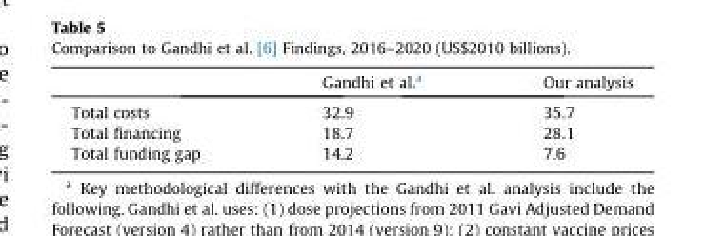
<table><thead><tr><td></td><td>Gandhi et al.<sup>a</sup></td><td>Our analysis</td></tr></thead><tbody><tr><td>Total costs</td><td>32.9</td><td>35.7</td></tr><tr><td>Total financing</td><td>18.7</td><td>28.1</td></tr><tr><td>Total funding gap</td><td>14.2</td><td>7.6</td></tr></tbody></table>